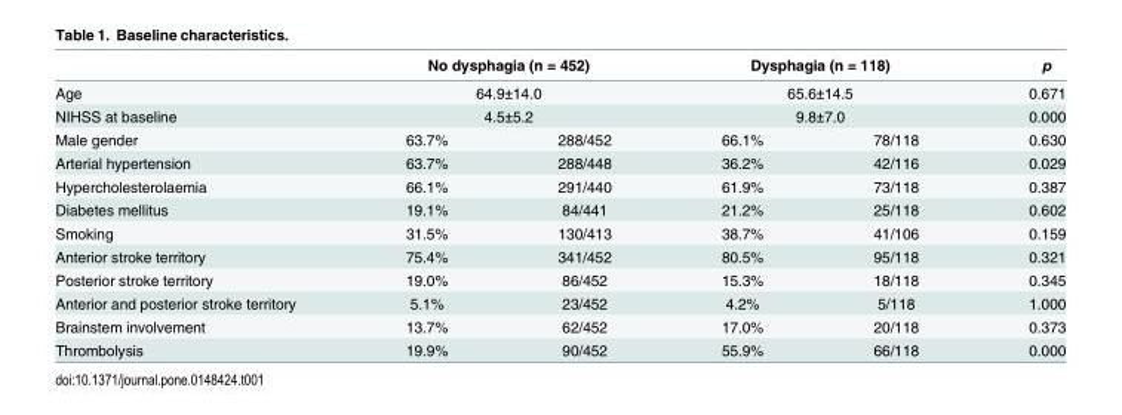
<table><thead><tr><td rowspan="4">Age NIHSS at baseline Male gender</td><td rowspan="3" colspan="2">No dysphagia (n = 452) 64.9±14.0 4.5±5.2</td><td rowspan="3" colspan="2">Dysphagia (n = 118) 65.6±14.5 9.8±7.0</td><td rowspan="4">p 0.671 0.000 0.630</td></tr><tr></tr><tr></tr><tr><td>63.7%</td><td>288/452</td><td>66.1%</td><td>78/118</td></tr></thead><tbody><tr><td>Arterial hypertension</td><td>63.7%</td><td>288/448</td><td>36.2%</td><td>42/116</td><td>0.029</td></tr><tr><td>Hypercholesterolaemia</td><td>66.1%</td><td>291/440</td><td>61.9%</td><td>73/118</td><td>0.387</td></tr><tr><td>Diabetes mellitus</td><td>19.1%</td><td>84/441</td><td>21.2%</td><td>25/118</td><td>0.602</td></tr><tr><td>Smoking</td><td>31.5%</td><td>130/413</td><td>38.7%</td><td>41/106</td><td>0.159</td></tr><tr><td>Anterior stroke territory</td><td>75.4%</td><td>341/452</td><td>80.5%</td><td>95/118</td><td>0.321</td></tr><tr><td>Posterior stroke territory</td><td>19.0%</td><td>86/452</td><td>15.3%</td><td>18/118</td><td>0.345</td></tr><tr><td>Anterior and posterior stroke territory</td><td>5.1%</td><td>23/452</td><td>4.2%</td><td>5/118</td><td>1.000</td></tr><tr><td>Brainstem involvement</td><td>13.7%</td><td>62/452</td><td>17.0%</td><td>20/118</td><td>0.373</td></tr><tr><td>Thrombolysis</td><td>19.9%</td><td>90/452</td><td>55.9%</td><td>66/118</td><td>0.000</td></tr></tbody></table>